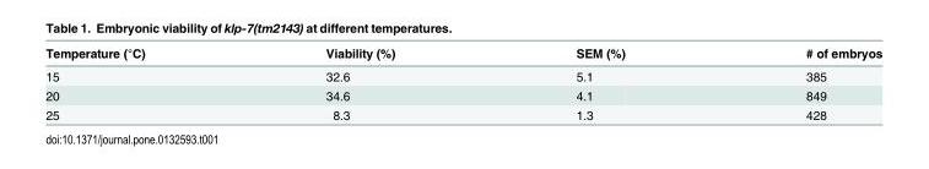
<table><thead><tr><td>Temperature (°C)</td><td>Viability (%)</td><td>SEM (%)</td><td># of embryos</td></tr></thead><tbody><tr><td>15</td><td>32.6</td><td>5.1</td><td>385</td></tr><tr><td>20</td><td>34.6</td><td>4.1</td><td>849</td></tr><tr><td>25</td><td>8.3</td><td>1.3</td><td>428</td></tr></tbody></table>